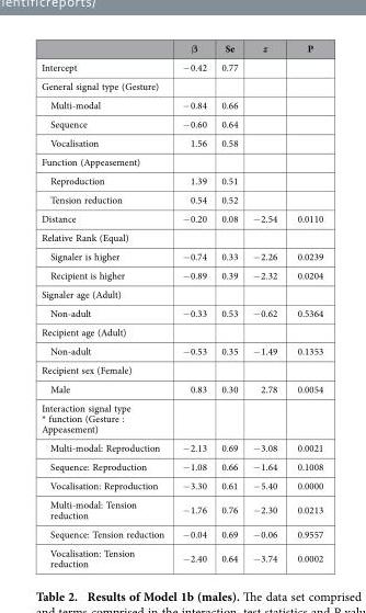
<table><thead><tr><td></td><td>β</td><td>Se</td><td>z</td><td>P</td></tr></thead><tbody><tr><td>Intercept</td><td>− 0.42</td><td>0.77</td><td></td><td></td></tr><tr><td colspan="5">General signal type (Gesture)</td></tr><tr><td>Multi-modal</td><td>− 0.84</td><td>0.66</td><td></td><td></td></tr><tr><td>Sequence</td><td>− 0.60</td><td>0.64</td><td></td><td></td></tr><tr><td>Vocalisation</td><td>1.56</td><td>0.58</td><td></td><td></td></tr><tr><td colspan="5">Function (Appeasement)</td></tr><tr><td>Reproduction</td><td>1.39</td><td>0.51</td><td></td><td></td></tr><tr><td>Tension reduction</td><td>0.54</td><td>0.52</td><td></td><td></td></tr><tr><td>Distance</td><td>− 0.20</td><td>0.08</td><td>− 2.54</td><td>0.0110</td></tr><tr><td colspan="5">Relative Rank (Equal)</td></tr><tr><td>Signaler is higher</td><td>− 0.74</td><td>0.33</td><td>− 2.26</td><td>0.0239</td></tr><tr><td>Recipient is higher</td><td>− 0.89</td><td>0.39</td><td>− 2.32</td><td>0.0204</td></tr><tr><td colspan="5">Signaler age (Adult)</td></tr><tr><td>Non-adult</td><td>− 0.33</td><td>0.53</td><td>− 0.62</td><td>0.5364</td></tr><tr><td colspan="5">Recipient age (Adult)</td></tr><tr><td>Non-adult</td><td>− 0.53</td><td>0.35</td><td>− 1.49</td><td>0.1353</td></tr><tr><td colspan="5">Recipient sex (Female)</td></tr><tr><td>Male</td><td>0.83</td><td>0.30</td><td>2.78</td><td>0.0054</td></tr><tr><td colspan="5">Interaction signal type * function (Gesture : Appeasement)</td></tr><tr><td>Multi-modal: Reproduction</td><td>− 2.13</td><td>0.69</td><td>− 3.08</td><td>0.0021</td></tr><tr><td>Sequence: Reproduction</td><td>− 1.08</td><td>0.66</td><td>− 1.64</td><td>0.1008</td></tr><tr><td>Vocalisation: Reproduction</td><td>− 3.30</td><td>0.61</td><td>− 5.40</td><td>0.0000</td></tr><tr><td>Multi-modal: Tension reduction</td><td>− 1.76</td><td>0.76</td><td>− 2.30</td><td>0.0213</td></tr><tr><td>Sequence: Tension reduction</td><td>− 0.04</td><td>0.69</td><td>− 0.06</td><td>0.9557</td></tr><tr><td>Vocalisation: Tension reduction</td><td>− 2.40</td><td>0.64</td><td>− 3.74</td><td>0.0002</td></tr></tbody></table>